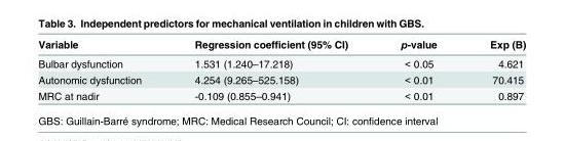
<table><thead><tr><td>Variable</td><td>Regression coefficient (95% CI)</td><td>p-value</td><td>Exp (B)</td></tr></thead><tbody><tr><td>Bulbar dysfunction</td><td>1.531 (1.240–17.218)</td><td>&lt; 0.05</td><td>4.621</td></tr><tr><td>Autonomic dysfunction</td><td>4.254 (9.265–525.158)</td><td>&lt; 0.01</td><td>70.415</td></tr><tr><td>MRC at nadir</td><td>-0.109 (0.855–0.941)</td><td>&lt; 0.01</td><td>0.897</td></tr></tbody></table>